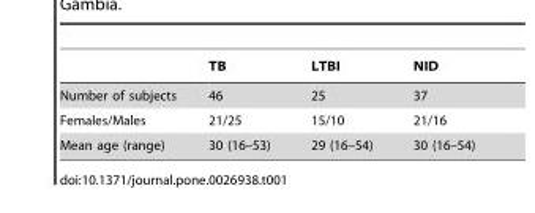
<table><thead><tr><td></td><td>TB</td><td>LTBI</td><td>NID</td></tr></thead><tbody><tr><td>Number of subjects</td><td>46</td><td>25</td><td>37</td></tr><tr><td>Females/Males</td><td>21/25</td><td>15/10</td><td>21/16</td></tr><tr><td>Mean age (range)</td><td>30 (16–53)</td><td>29 (16–54)</td><td>30 (16–54)</td></tr></tbody></table>